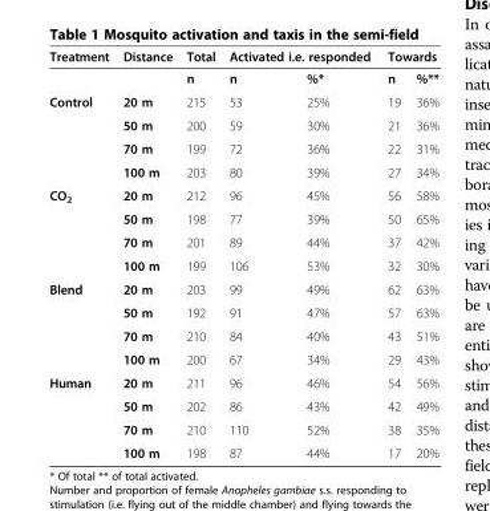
<table><thead><tr><td rowspan="2">Treatment</td><td rowspan="2">Distance</td><td rowspan="2">Total n</td><td colspan="2">Activated i.e. responded</td><td colspan="2">Towards</td></tr><tr><td>n</td><td>%*</td><td>n</td><td>%**</td></tr></thead><tbody><tr><td rowspan="4">Control</td><td>20 m</td><td>215</td><td>53</td><td>25%</td><td>19</td><td>36%</td></tr><tr><td>50 m</td><td>200</td><td>59</td><td>30%</td><td>21</td><td>36%</td></tr><tr><td>70 m</td><td>199</td><td>72</td><td>36%</td><td>22</td><td>31%</td></tr><tr><td>100 m</td><td>203</td><td>80</td><td>39%</td><td>27</td><td>34%</td></tr><tr><td rowspan="4">CO<sub>2</sub></td><td>20 m</td><td>212</td><td>96</td><td>45%</td><td>56</td><td>58%</td></tr><tr><td>50 m</td><td>198</td><td>77</td><td>39%</td><td>50</td><td>65%</td></tr><tr><td>70 m</td><td>201</td><td>89</td><td>44%</td><td>37</td><td>42%</td></tr><tr><td>100 m</td><td>199</td><td>106</td><td>53%</td><td>32</td><td>30%</td></tr><tr><td rowspan="4">Blend</td><td>20 m</td><td>203</td><td>99</td><td>49%</td><td>62</td><td>63%</td></tr><tr><td>50 m</td><td>192</td><td>91</td><td>47%</td><td>57</td><td>63%</td></tr><tr><td>70 m</td><td>210</td><td>84</td><td>40%</td><td>43</td><td>51%</td></tr><tr><td>100 m</td><td>200</td><td>67</td><td>34%</td><td>29</td><td>43%</td></tr><tr><td rowspan="4">Human</td><td>20 m</td><td>211</td><td>96</td><td>46%</td><td>54</td><td>56%</td></tr><tr><td>50 m</td><td>202</td><td>86</td><td>43%</td><td>42</td><td>49%</td></tr><tr><td>70 m</td><td>210</td><td>110</td><td>52%</td><td>38</td><td>35%</td></tr><tr><td>100 m</td><td>198</td><td>87</td><td>44%</td><td>17</td><td>20%</td></tr></tbody></table>